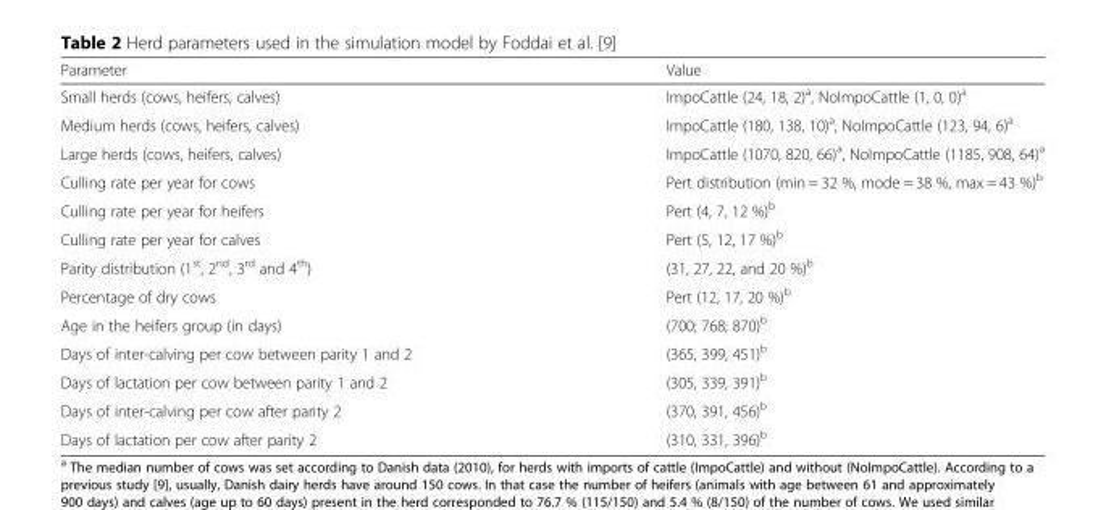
<table><thead><tr><td>Parameter</td><td>Value</td></tr></thead><tbody><tr><td>Small herds (cows, heifers, calves)</td><td>ImpoCattle (24, 18, 2)<sup>a</sup>, NoImpoCattle (1, 0, 0)<sup>a</sup></td></tr><tr><td>Medium herds (cows, heifers, calves)</td><td>ImpoCattle (180, 138, 10)<sup>a</sup>, NoImpoCattle (123, 94, 6)<sup>a</sup></td></tr><tr><td>Large herds (cows, heifers, calves)</td><td>ImpoCattle (1070, 820, 66)<sup>a</sup>, NoImpoCattle (1185, 908, 64)<sup>a</sup></td></tr><tr><td>Culling rate per year for cows</td><td>Pert distribution (min = 32 %, mode = 38 %, max = 43 %)<sup>b</sup></td></tr><tr><td>Culling rate per year for heifers</td><td>Pert (4, 7, 12 %)<sup>b</sup></td></tr><tr><td>Culling rate per year for calves</td><td>Pert (5, 12, 17 %)<sup>b</sup></td></tr><tr><td>Parity distribution (1<sup>st</sup>, 2<sup>nd</sup>, 3<sup>rd</sup> and 4<sup>th</sup>)</td><td>(31, 27, 22, and 20 %)<sup>b</sup></td></tr><tr><td>Percentage of dry cows</td><td>Pert (12, 17, 20 %)<sup>b</sup></td></tr><tr><td>Age in the heifers group (in days)</td><td>(700; 768; 870)<sup>b</sup></td></tr><tr><td>Days of inter-calving per cow between parity 1 and 2</td><td>(365, 399, 451)<sup>b</sup></td></tr><tr><td>Days of lactation per cow between parity 1 and 2</td><td>(305, 339, 391)<sup>b</sup></td></tr><tr><td>Days of inter-calving per cow after parity 2</td><td>(370, 391, 456)<sup>b</sup></td></tr><tr><td>Days of lactation per cow after parity 2</td><td>(310, 331, 396)<sup>b</sup></td></tr></tbody></table>